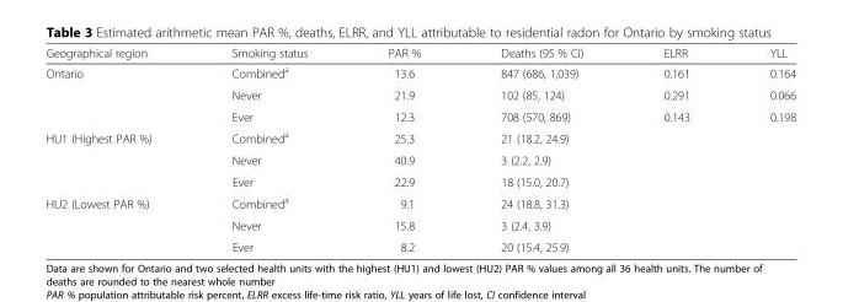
<table><thead><tr><td>Geographical region</td><td>Smoking status</td><td>PAR %</td><td>Deaths (95 % CI)</td><td>ELRR</td><td>YLL</td></tr></thead><tbody><tr><td rowspan="3">Ontario</td><td>Combined<sup>a</sup></td><td>13.6</td><td>847 (686, 1,039)</td><td>0.161</td><td>0.164</td></tr><tr><td>Never</td><td>21.9</td><td>102 (85, 124)</td><td>0.291</td><td>0.066</td></tr><tr><td>Ever</td><td>12.3</td><td>708 (570, 869)</td><td>0.143</td><td>0.198</td></tr><tr><td rowspan="3">HU1 (Highest PAR %)</td><td>Combined<sup>a</sup></td><td>25.3</td><td>21 (18.2, 24.9)</td><td></td><td></td></tr><tr><td>Never</td><td>40.9</td><td>3 (2.2, 2.9)</td><td></td><td></td></tr><tr><td>Ever</td><td>22.9</td><td>18 (15.0, 20.7)</td><td></td><td></td></tr><tr><td rowspan="3">HU2 (Lowest PAR %)</td><td>Combined<sup>a</sup></td><td>9.1</td><td>24 (18.8, 31.3)</td><td></td><td></td></tr><tr><td>Never</td><td>15.8</td><td>3 (2.4, 3.9)</td><td></td><td></td></tr><tr><td>Ever</td><td>8.2</td><td>20 (15.4, 25.9)</td><td></td><td></td></tr></tbody></table>